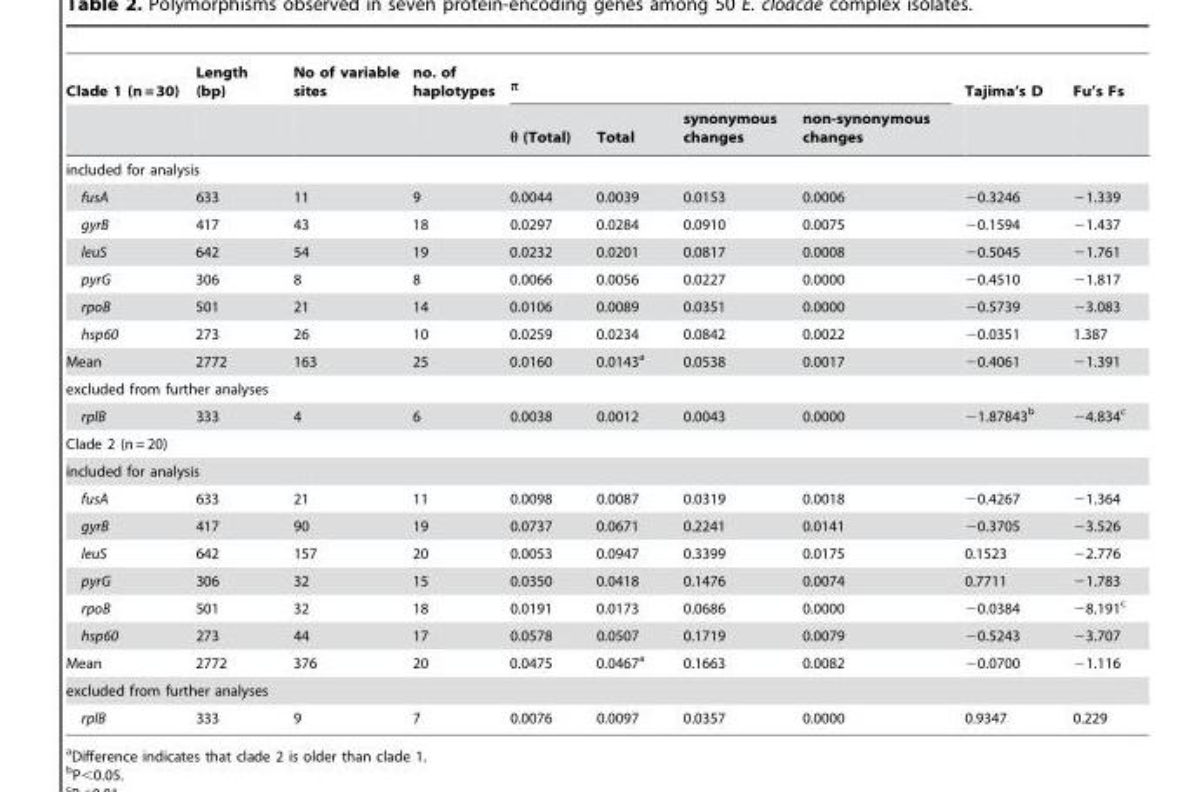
<table><thead><tr><td rowspan="2">Clade 1 (n = 30)</td><td rowspan="2">Length (bp)</td><td rowspan="2">No of variable sites</td><td rowspan="2">no. of haplotypes</td><td colspan="4">π</td><td rowspan="2">Tajima’s D</td><td rowspan="2">Fu’s Fs</td></tr><tr><td>θ (Total)</td><td>Total</td><td>synonymous changes</td><td>non-synonymous changes</td></tr></thead><tbody><tr><td colspan="10">included for analysis</td></tr><tr><td>fusA</td><td>633</td><td>11</td><td>9</td><td>0.0044</td><td>0.0039</td><td>0.0153</td><td>0.0006</td><td>−0.3246</td><td>−1.339</td></tr><tr><td>gyrB</td><td>417</td><td>43</td><td>18</td><td>0.0297</td><td>0.0284</td><td>0.0910</td><td>0.0075</td><td>−0.1594</td><td>−1.437</td></tr><tr><td>leuS</td><td>642</td><td>54</td><td>19</td><td>0.0232</td><td>0.0201</td><td>0.0817</td><td>0.0008</td><td>−0.5045</td><td>−1.761</td></tr><tr><td>pyrG</td><td>306</td><td>8</td><td>8</td><td>0.0066</td><td>0.0056</td><td>0.0227</td><td>0.0000</td><td>−0.4510</td><td>−1.817</td></tr><tr><td>rpoB</td><td>501</td><td>21</td><td>14</td><td>0.0106</td><td>0.0089</td><td>0.0351</td><td>0.0000</td><td>−0.5739</td><td>−3.083</td></tr><tr><td>hsp60</td><td>273</td><td>26</td><td>10</td><td>0.0259</td><td>0.0234</td><td>0.0842</td><td>0.0022</td><td>−0.0351</td><td>1.387</td></tr><tr><td>Mean</td><td>2772</td><td>163</td><td>25</td><td>0.0160</td><td>0.0143<sup>a</sup></td><td>0.0538</td><td>0.0017</td><td>−0.4061</td><td>−1.391</td></tr><tr><td colspan="10">excluded from further analyses</td></tr><tr><td>rplB</td><td>333</td><td>4</td><td>6</td><td>0.0038</td><td>0.0012</td><td>0.0043</td><td>0.0000</td><td>−1.87843<sup>b</sup></td><td>−4.834<sup>c</sup></td></tr><tr><td colspan="10">Clade 2 (n = 20)</td></tr><tr><td colspan="10">included for analysis</td></tr><tr><td>fusA</td><td>633</td><td>21</td><td>11</td><td>0.0098</td><td>0.0087</td><td>0.0319</td><td>0.0018</td><td>−0.4267</td><td>−1.364</td></tr><tr><td>gyrB</td><td>417</td><td>90</td><td>19</td><td>0.0737</td><td>0.0671</td><td>0.2241</td><td>0.0141</td><td>−0.3705</td><td>−3.526</td></tr><tr><td>leuS</td><td>642</td><td>157</td><td>20</td><td>0.0053</td><td>0.0947</td><td>0.3399</td><td>0.0175</td><td>0.1523</td><td>−2.776</td></tr><tr><td>pyrG</td><td>306</td><td>32</td><td>15</td><td>0.0350</td><td>0.0418</td><td>0.1476</td><td>0.0074</td><td>0.7711</td><td>−1.783</td></tr><tr><td>rpoB</td><td>501</td><td>32</td><td>18</td><td>0.0191</td><td>0.0173</td><td>0.0686</td><td>0.0000</td><td>−0.0384</td><td>−8.191<sup>c</sup></td></tr><tr><td>hsp60</td><td>273</td><td>44</td><td>17</td><td>0.0578</td><td>0.0507</td><td>0.1719</td><td>0.0079</td><td>−0.5243</td><td>−3.707</td></tr><tr><td>Mean</td><td>2772</td><td>376</td><td>20</td><td>0.0475</td><td>0.0467<sup>a</sup></td><td>0.1663</td><td>0.0082</td><td>−0.0700</td><td>−1.116</td></tr><tr><td colspan="10">excluded from further analyses</td></tr><tr><td>rplB</td><td>333</td><td>9</td><td>7</td><td>0.0076</td><td>0.0097</td><td>0.0357</td><td>0.0000</td><td>0.9347</td><td>0.229</td></tr></tbody></table>